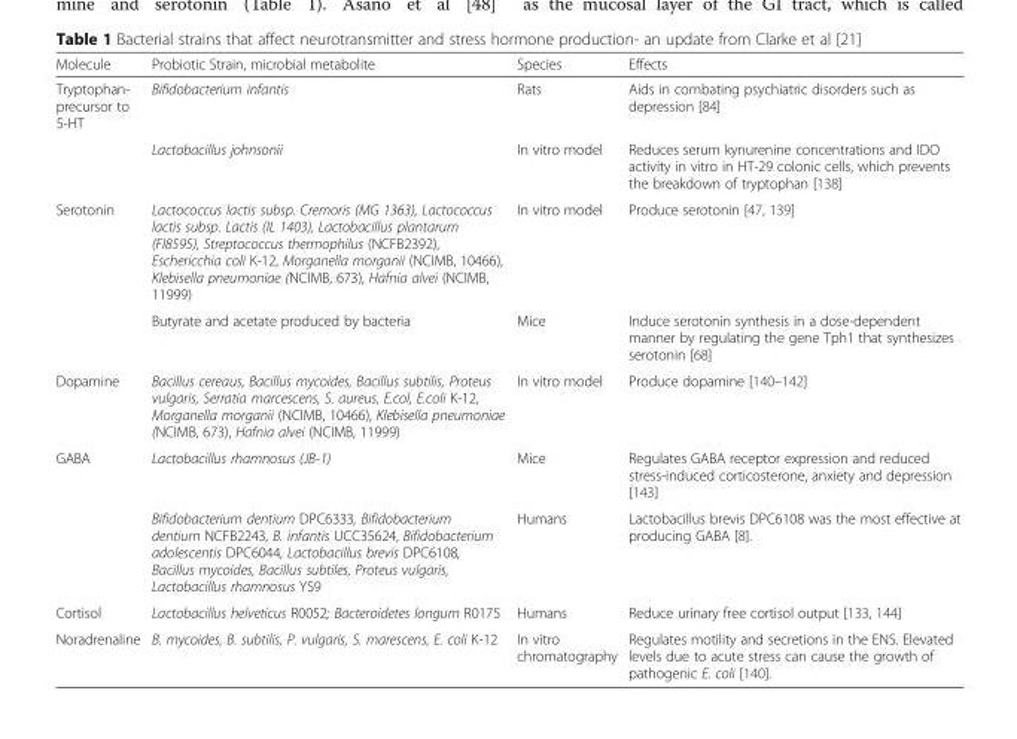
<table><thead><tr><td>Molecule</td><td>Probiotic Strain, microbial metabolite</td><td>Species</td><td>Effects</td></tr></thead><tbody><tr><td rowspan="2">Tryptophan- precursor to 5-HT</td><td>Bifidobacterium infantis</td><td>Rats</td><td>Aids in combating psychiatric disorders such as depression [84]</td></tr><tr><td>Lactobacillus johnsonii</td><td>In vitro model</td><td>Reduces serum kynurenine concentrations and IDO activity in vitro in HT-29 colonic cells, which prevents the breakdown of tryptophan [138]</td></tr><tr><td rowspan="2">Serotonin</td><td>Lactococcus lactis subsp. Cremoris (MG 1363), Lactococcus lactis subsp. Lactis (IL 1403), Lactobacillus plantarum (FI8595), Streptococcus thermophilus (NCFB2392), Eschericchia coli K-12, Morganella morganii (NCIMB, 10466), Klebisella pneumoniae (NCIMB, 673), Hafnia alvei (NCIMB, 11999)</td><td>In vitro model</td><td>Produce serotonin [47, 139]</td></tr><tr><td>Butyrate and acetate produced by bacteria</td><td>Mice</td><td>Induce serotonin synthesis in a dose-dependent manner by regulating the gene Tph1 that synthesizes serotonin [68]</td></tr><tr><td>Dopamine</td><td>Bacillus cereaus, Bacillus mycoides, Bacillus subtilis, Proteus vulgaris, Serratia marcescens, S. aureus, E.col, E.coli K-12, Morganella morganii (NCIMB, 10466), Klebisella pneumoniae (NCIMB, 673), Hafnia alvei (NCIMB, 11999)</td><td>In vitro model</td><td>Produce dopamine [140–142]</td></tr><tr><td rowspan="2">GABA</td><td>Lactobacillus rhamnosus (JB-1)</td><td>Mice</td><td>Regulates GABA receptor expression and reduced stress-induced corticosterone, anxiety and depression [143]</td></tr><tr><td>Bifidobacterium dentium DPC6333, Bifidobacterium dentium NCFB2243, B. infantis UCC35624, Bifidobacterium adolescentis DPC6044, Lactobacillus brevis DPC6108, Bacillus mycoides, Bacillus subtiles, Proteus vulgaris, Lactobacillus rhamnosus YS9</td><td>Humans</td><td>Lactobacillus brevis DPC6108 was the most effective at producing GABA [8].</td></tr><tr><td>Cortisol</td><td>Lactobacillus helveticus R0052; Bacteroidetes longum R0175</td><td>Humans</td><td>Reduce urinary free cortisol output [133, 144]</td></tr><tr><td>Noradrenaline</td><td>B. mycoides, B. subtilis, P. vulgaris, S. marescens, E. coli K-12</td><td>In vitro chromatography</td><td>Regulates motility and secretions in the ENS. Elevated levels due to acute stress can cause the growth of pathogenic E. coli [140].</td></tr></tbody></table>